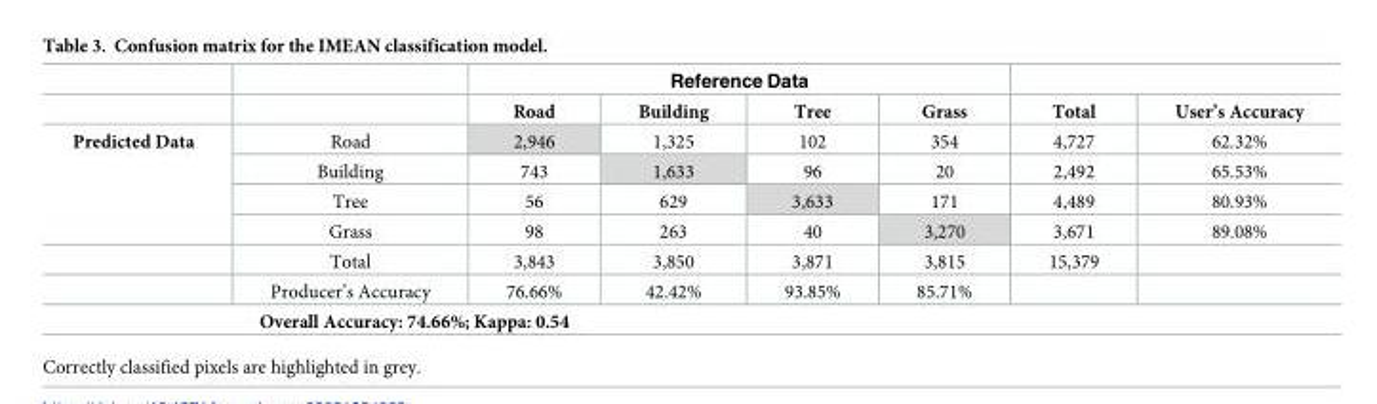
<table><thead><tr><td rowspan="2"></td><td rowspan="2"></td><td colspan="4">Reference Data</td><td rowspan="2">Total</td><td rowspan="2">User’s Accuracy</td></tr><tr><td>Road</td><td>Building</td><td>Tree</td><td>Grass</td></tr></thead><tbody><tr><td rowspan="6">Predicted Data</td><td>Road</td><td>2,946</td><td>1,325</td><td>102</td><td>354</td><td>4,727</td><td>62.32%</td></tr><tr><td>Building</td><td>743</td><td>1,633</td><td>96</td><td>20</td><td>2,492</td><td>65.53%</td></tr><tr><td>Tree</td><td>56</td><td>629</td><td>3,633</td><td>171</td><td>4,489</td><td>80.93%</td></tr><tr><td>Grass</td><td>98</td><td>263</td><td>40</td><td>3,270</td><td>3,671</td><td>89.08%</td></tr><tr><td>Total</td><td>3,843</td><td>3,850</td><td>3,871</td><td>3,815</td><td>15,379</td><td></td></tr><tr><td>Producer’s Accuracy</td><td>76.66%</td><td>42.42%</td><td>93.85%</td><td>85.71%</td><td></td><td></td></tr><tr><td colspan="8">Overall Accuracy: 74.66%; Kappa: 0.54</td></tr></tbody></table>